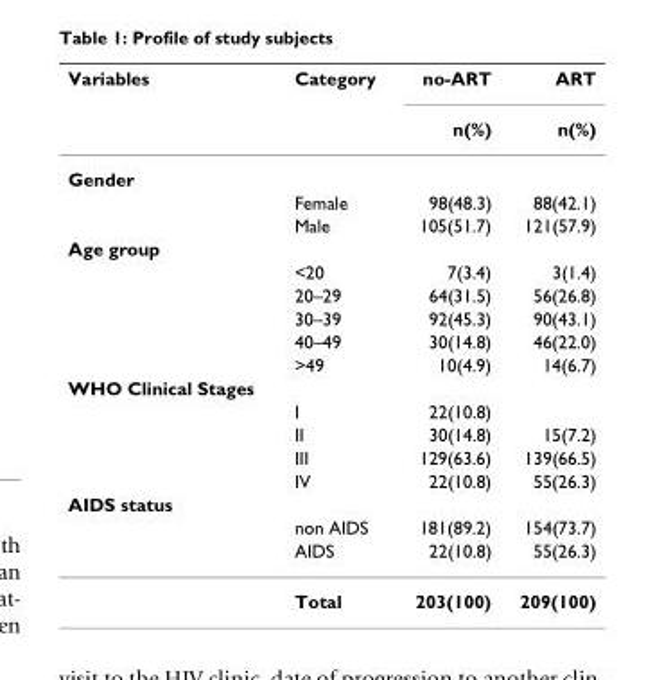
<table><thead><tr><td rowspan="2">Variables</td><td rowspan="2">Category</td><td rowspan="2">no-ART n(%)</td><td rowspan="2">ART n(%)</td></tr><tr></tr></thead><tbody><tr><td colspan="4">Gender</td></tr><tr><td></td><td>Female</td><td>98(48.3)</td><td>88(42.1)</td></tr><tr><td></td><td>Male</td><td>105(51.7)</td><td>121(57.9)</td></tr><tr><td colspan="4">Age group</td></tr><tr><td></td><td>&lt;20</td><td>7(3.4)</td><td>3(1.4)</td></tr><tr><td></td><td>20–29</td><td>64(31.5)</td><td>56(26.8)</td></tr><tr><td></td><td>30–39</td><td>92(45.3)</td><td>90(43.1)</td></tr><tr><td></td><td>40–49</td><td>30(14.8)</td><td>46(22.0)</td></tr><tr><td></td><td>&gt;49</td><td>10(4.9)</td><td>14(6.7)</td></tr><tr><td colspan="4">WHO Clinical Stages</td></tr><tr><td></td><td>I</td><td>22(10.8)</td><td></td></tr><tr><td></td><td>II</td><td>30(14.8)</td><td>15(7.2)</td></tr><tr><td></td><td>III</td><td>129(63.6)</td><td>139(66.5)</td></tr><tr><td></td><td>IV</td><td>22(10.8)</td><td>55(26.3)</td></tr><tr><td colspan="4">AIDS status</td></tr><tr><td></td><td>non AIDS</td><td>181(89.2)</td><td>154(73.7)</td></tr><tr><td></td><td>AIDS</td><td>22(10.8)</td><td>55(26.3)</td></tr><tr><td></td><td>Total</td><td>203(100)</td><td>209(100)</td></tr></tbody></table>